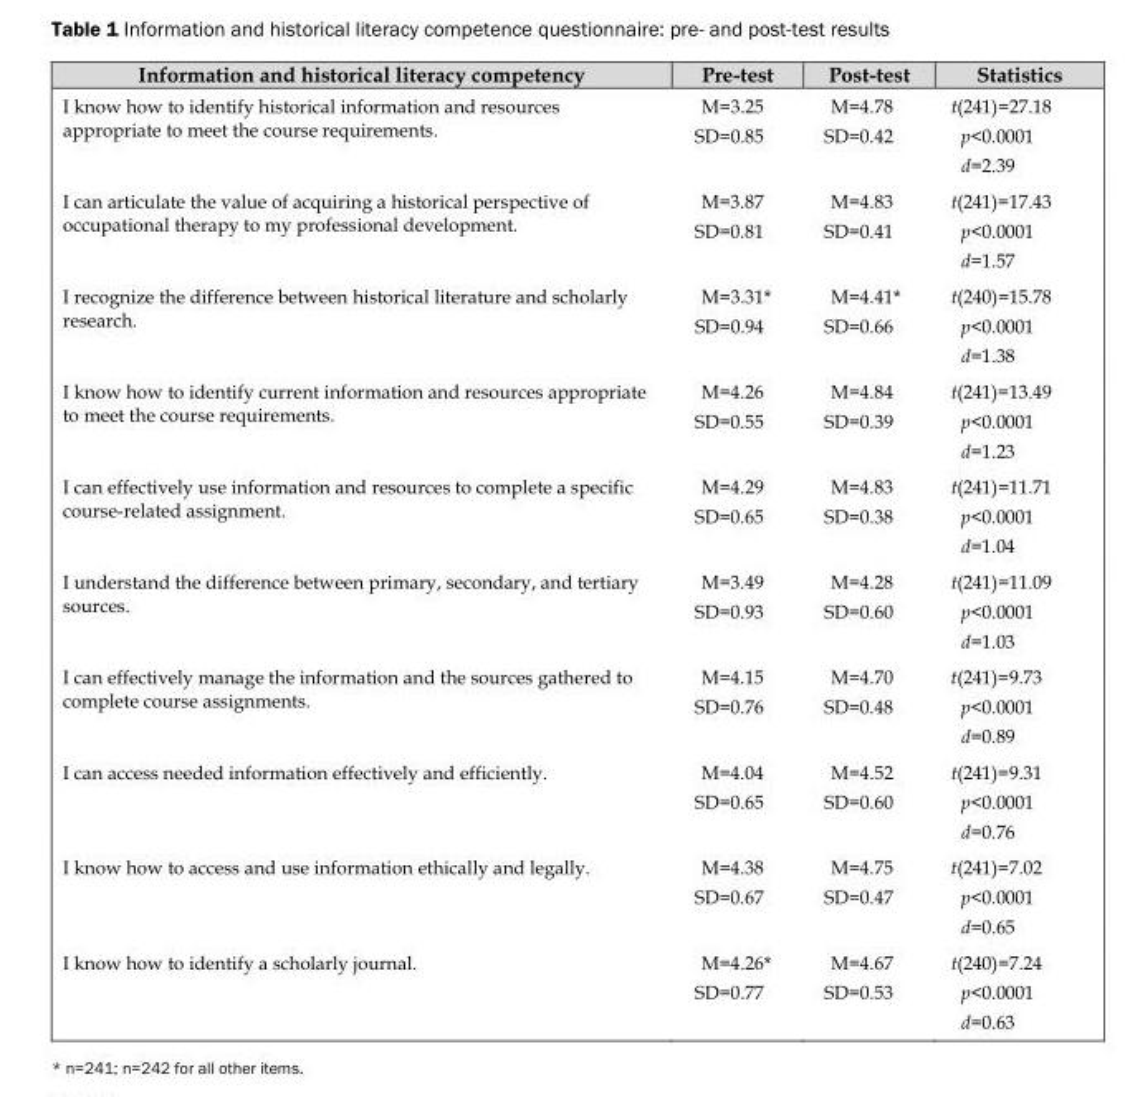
<table><thead><tr><td>Information and historical literacy competency</td><td>Pre-test</td><td>Post-test</td><td>Statistics</td></tr></thead><tbody><tr><td>I know how to identify historical information and resources appropriate to meet the course requirements.</td><td>M=3.25 SD=0.85</td><td>M=4.78 SD=0.42</td><td>t(241)=27.18 p&lt;0.0001 d=2.39</td></tr><tr><td>I can articulate the value of acquiring a historical perspective of occupational therapy to my professional development.</td><td>M=3.87 SD=0.81</td><td>M=4.83 SD=0.41</td><td>t(241)=17.43 p&lt;0.0001 d=1.57</td></tr><tr><td>I recognize the difference between historical literature and scholarly research.</td><td>M=3.31* SD=0.94</td><td>M=4.41* SD=0.66</td><td>t(240)=15.78 p&lt;0.0001 d=1.38</td></tr><tr><td>I know how to identify current information and resources appropriate to meet the course requirements.</td><td>M=4.26 SD=0.55</td><td>M=4.84 SD=0.39</td><td>t(241)=13.49 p&lt;0.0001 d=1.23</td></tr><tr><td>I can effectively use information and resources to complete a specific course-related assignment.</td><td>M=4.29 SD=0.65</td><td>M=4.83 SD=0.38</td><td>t(241)=11.71 p&lt;0.0001 d=1.04</td></tr><tr><td>I understand the difference between primary, secondary, and tertiary sources.</td><td>M=3.49 SD=0.93</td><td>M=4.28 SD=0.60</td><td>t(241)=11.09 p&lt;0.0001 d=1.03</td></tr><tr><td>I can effectively manage the information and the sources gathered to complete course assignments.</td><td>M=4.15 SD=0.76</td><td>M=4.70 SD=0.48</td><td>t(241)=9.73 p&lt;0.0001 d=0.89</td></tr><tr><td>I can access needed information effectively and efficiently.</td><td>M=4.04 SD=0.65</td><td>M=4.52 SD=0.60</td><td>t(241)=9.31 p&lt;0.0001 d=0.76</td></tr><tr><td>I know how to access and use information ethically and legally.</td><td>M=4.38 SD=0.67</td><td>M=4.75 SD=0.47</td><td>t(241)=7.02 p&lt;0.0001 d=0.65</td></tr><tr><td>I know how to identify a scholarly journal.</td><td>M=4.26* SD=0.77</td><td>M=4.67 SD=0.53</td><td>t(240)=7.24 p&lt;0.0001 d=0.63</td></tr></tbody></table>